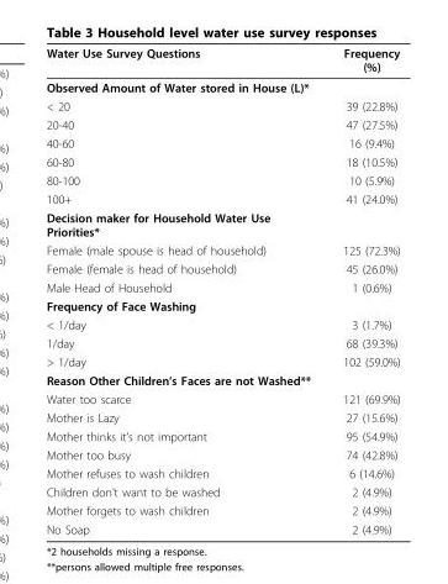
<table><thead><tr><td>Water Use Survey Questions</td><td>Frequency (%)</td></tr></thead><tbody><tr><td colspan="2">Observed Amount of Water stored in House (L)*</td></tr><tr><td>&lt; 20</td><td>39 (22.8%)</td></tr><tr><td>20-40</td><td>47 (27.5%)</td></tr><tr><td>40-60</td><td>16 (9.4%)</td></tr><tr><td>60-80</td><td>18 (10.5%)</td></tr><tr><td>80-100</td><td>10 (5.9%)</td></tr><tr><td>100+</td><td>41 (24.0%)</td></tr><tr><td colspan="2">Decision maker for Household Water Use Priorities*</td></tr><tr><td>Female (male spouse is head of household)</td><td>125 (72.3%)</td></tr><tr><td>Female (female is head of household)</td><td>45 (26.0%)</td></tr><tr><td>Male Head of Household</td><td>1 (0.6%)</td></tr><tr><td colspan="2">Frequency of Face Washing</td></tr><tr><td>&lt; 1/day</td><td>3 (1.7%)</td></tr><tr><td>1/day</td><td>68 (39.3%)</td></tr><tr><td>&gt; 1/day</td><td>102 (59.0%)</td></tr><tr><td colspan="2">Reason Other Children’s Faces are not Washed**</td></tr><tr><td>Water too scarce</td><td>121 (69.9%)</td></tr><tr><td>Mother is Lazy</td><td>27 (15.6%)</td></tr><tr><td>Mother thinks it’s not important</td><td>95 (54.9%)</td></tr><tr><td>Mother too busy</td><td>74 (42.8%)</td></tr><tr><td>Mother refuses to wash children</td><td>6 (14.6%)</td></tr><tr><td>Children don’t want to be washed</td><td>2 (4.9%)</td></tr><tr><td>Mother forgets to wash children</td><td>2 (4.9%)</td></tr><tr><td>No Soap</td><td>2 (4.9%)</td></tr></tbody></table>